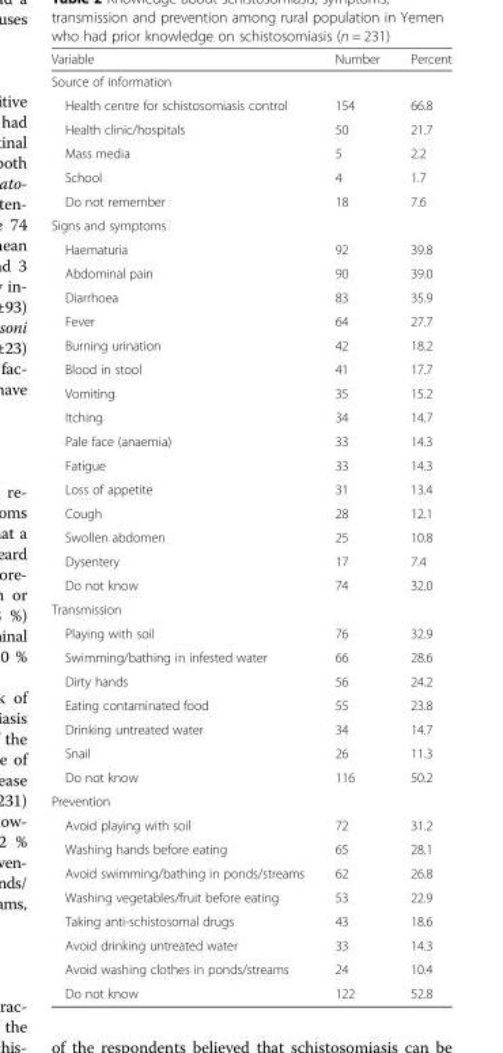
<table><thead><tr><td>Variable</td><td>Number</td><td>Percent</td></tr></thead><tbody><tr><td colspan="3">Source of information</td></tr><tr><td>Health centre for schistosomiasis control</td><td>154</td><td>66.8</td></tr><tr><td>Health clinic/hospitals</td><td>50</td><td>21.7</td></tr><tr><td>Mass media</td><td>5</td><td>2.2</td></tr><tr><td>School</td><td>4</td><td>1.7</td></tr><tr><td>Do not remember</td><td>18</td><td>7.6</td></tr><tr><td colspan="3">Signs and symptoms</td></tr><tr><td>Haematuria</td><td>92</td><td>39.8</td></tr><tr><td>Abdominal pain</td><td>90</td><td>39.0</td></tr><tr><td>Diarrhoea</td><td>83</td><td>35.9</td></tr><tr><td>Fever</td><td>64</td><td>27.7</td></tr><tr><td>Burning urination</td><td>42</td><td>18.2</td></tr><tr><td>Blood in stool</td><td>41</td><td>17.7</td></tr><tr><td>Vomiting</td><td>35</td><td>15.2</td></tr><tr><td>Itching</td><td>34</td><td>14.7</td></tr><tr><td>Pale face (anaemia)</td><td>33</td><td>14.3</td></tr><tr><td>Fatigue</td><td>33</td><td>14.3</td></tr><tr><td>Loss of appetite</td><td>31</td><td>13.4</td></tr><tr><td>Cough</td><td>28</td><td>12.1</td></tr><tr><td>Swollen abdomen</td><td>25</td><td>10.8</td></tr><tr><td>Dysentery</td><td>17</td><td>7.4</td></tr><tr><td>Do not know</td><td>74</td><td>32.0</td></tr><tr><td colspan="3">Transmission</td></tr><tr><td>Playing with soil</td><td>76</td><td>32.9</td></tr><tr><td>Swimming/bathing in infested water</td><td>66</td><td>28.6</td></tr><tr><td>Dirty hands</td><td>56</td><td>24.2</td></tr><tr><td>Eating contaminated food</td><td>55</td><td>23.8</td></tr><tr><td>Drinking untreated water</td><td>34</td><td>14.7</td></tr><tr><td>Snail</td><td>26</td><td>11.3</td></tr><tr><td>Do not know</td><td>116</td><td>50.2</td></tr><tr><td colspan="3">Prevention</td></tr><tr><td>Avoid playing with soil</td><td>72</td><td>31.2</td></tr><tr><td>Washing hands before eating</td><td>65</td><td>28.1</td></tr><tr><td>Avoid swimming/bathing in ponds/streams</td><td>62</td><td>26.8</td></tr><tr><td>Washing vegetables/fruit before eating</td><td>53</td><td>22.9</td></tr><tr><td>Taking anti-schistosomal drugs</td><td>43</td><td>18.6</td></tr><tr><td>Avoid drinking untreated water</td><td>33</td><td>14.3</td></tr><tr><td>Avoid washing clothes in ponds/streams</td><td>24</td><td>10.4</td></tr><tr><td>Do not know</td><td>122</td><td>52.8</td></tr></tbody></table>